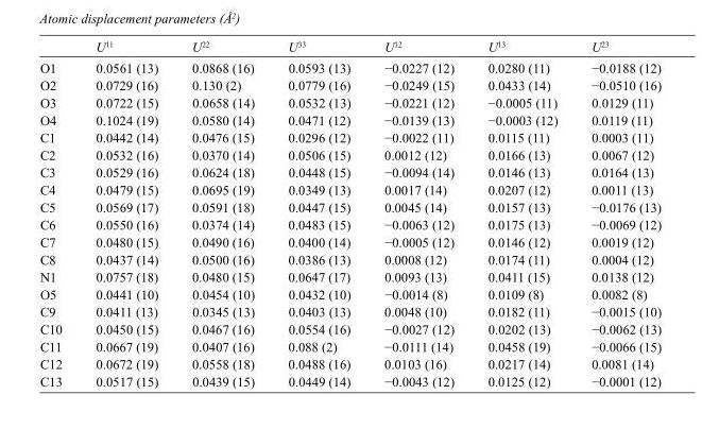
<table><thead><tr><td></td><td>U<sup>11</sup></td><td>U<sup>22</sup></td><td>U<sup>33</sup></td><td>U<sup>12</sup></td><td>U<sup>13</sup></td><td>U<sup>23</sup></td></tr></thead><tbody><tr><td>O1</td><td>0.0561 (13)</td><td>0.0868 (16)</td><td>0.0593 (13)</td><td>−0.0227 (12)</td><td>0.0280 (11)</td><td>−0.0188 (12)</td></tr><tr><td>O2</td><td>0.0729 (16)</td><td>0.130 (2)</td><td>0.0779 (16)</td><td>−0.0249 (15)</td><td>0.0433 (14)</td><td>−0.0510 (16)</td></tr><tr><td>O3</td><td>0.0722 (15)</td><td>0.0658 (14)</td><td>0.0532 (13)</td><td>−0.0221 (12)</td><td>−0.0005 (11)</td><td>0.0129 (11)</td></tr><tr><td>O4</td><td>0.1024 (19)</td><td>0.0580 (14)</td><td>0.0471 (12)</td><td>−0.0139 (13)</td><td>−0.0003 (12)</td><td>0.0119 (11)</td></tr><tr><td>C1</td><td>0.0442 (14)</td><td>0.0476 (15)</td><td>0.0296 (12)</td><td>−0.0022 (11)</td><td>0.0115 (11)</td><td>0.0003 (11)</td></tr><tr><td>C2</td><td>0.0532 (16)</td><td>0.0370 (14)</td><td>0.0506 (15)</td><td>0.0012 (12)</td><td>0.0166 (13)</td><td>0.0067 (12)</td></tr><tr><td>C3</td><td>0.0529 (16)</td><td>0.0624 (18)</td><td>0.0448 (15)</td><td>−0.0094 (14)</td><td>0.0146 (13)</td><td>0.0164 (13)</td></tr><tr><td>C4</td><td>0.0479 (15)</td><td>0.0695 (19)</td><td>0.0349 (13)</td><td>0.0017 (14)</td><td>0.0207 (12)</td><td>0.0011 (13)</td></tr><tr><td>C5</td><td>0.0569 (17)</td><td>0.0591 (18)</td><td>0.0447 (15)</td><td>0.0045 (14)</td><td>0.0157 (13)</td><td>−0.0176 (13)</td></tr><tr><td>C6</td><td>0.0550 (16)</td><td>0.0374 (14)</td><td>0.0483 (15)</td><td>−0.0063 (12)</td><td>0.0175 (13)</td><td>−0.0069 (12)</td></tr><tr><td>C7</td><td>0.0480 (15)</td><td>0.0490 (16)</td><td>0.0400 (14)</td><td>−0.0005 (12)</td><td>0.0146 (12)</td><td>0.0019 (12)</td></tr><tr><td>C8</td><td>0.0437 (14)</td><td>0.0500 (16)</td><td>0.0386 (13)</td><td>0.0008 (12)</td><td>0.0174 (11)</td><td>0.0004 (12)</td></tr><tr><td>N1</td><td>0.0757 (18)</td><td>0.0480 (15)</td><td>0.0647 (17)</td><td>0.0093 (13)</td><td>0.0411 (15)</td><td>0.0138 (12)</td></tr><tr><td>O5</td><td>0.0441 (10)</td><td>0.0454 (10)</td><td>0.0432 (10)</td><td>−0.0014 (8)</td><td>0.0109 (8)</td><td>0.0082 (8)</td></tr><tr><td>C9</td><td>0.0411 (13)</td><td>0.0345 (13)</td><td>0.0403 (13)</td><td>0.0048 (10)</td><td>0.0182 (11)</td><td>−0.0015 (10)</td></tr><tr><td>C10</td><td>0.0450 (15)</td><td>0.0467 (16)</td><td>0.0554 (16)</td><td>−0.0027 (12)</td><td>0.0202 (13)</td><td>−0.0062 (13)</td></tr><tr><td>C11</td><td>0.0667 (19)</td><td>0.0407 (16)</td><td>0.088 (2)</td><td>−0.0111 (14)</td><td>0.0458 (19)</td><td>−0.0066 (15)</td></tr><tr><td>C12</td><td>0.0672 (19)</td><td>0.0558 (18)</td><td>0.0488 (16)</td><td>0.0103 (16)</td><td>0.0217 (14)</td><td>0.0081 (14)</td></tr><tr><td>C13</td><td>0.0517 (15)</td><td>0.0439 (15)</td><td>0.0449 (14)</td><td>−0.0043 (12)</td><td>0.0125 (12)</td><td>−0.0001 (12)</td></tr></tbody></table>